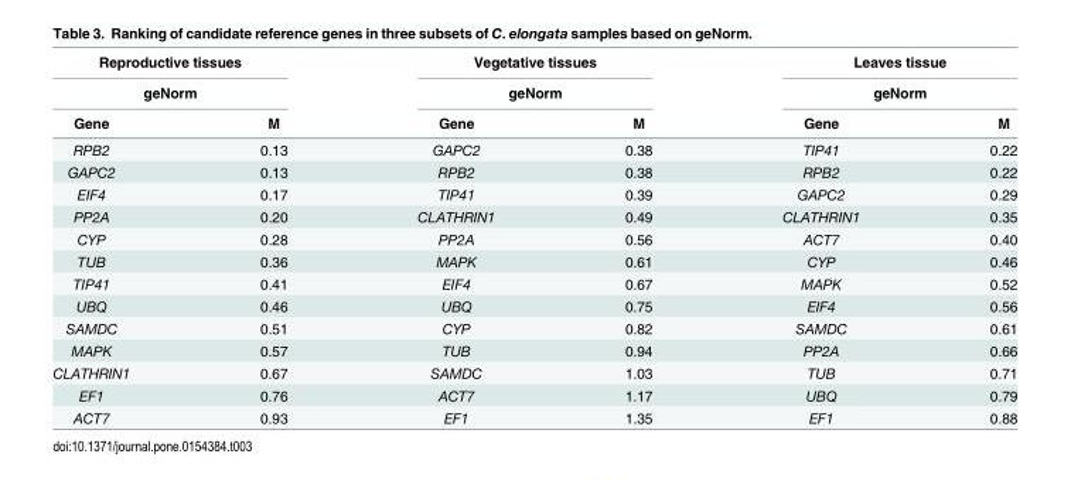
<table><thead><tr><td rowspan="2" colspan="2">Reproductive tissues geNorm</td><td rowspan="2" colspan="2">Vegetative tissues geNorm</td><td rowspan="2" colspan="2">Leaves tissue geNorm</td></tr><tr></tr><tr><td>Gene</td><td>M</td><td>Gene</td><td>M</td><td>Gene</td><td>M</td></tr></thead><tbody><tr><td>RPB2</td><td>0.13</td><td>GAPC2</td><td>0.38</td><td>TIP41</td><td>0.22</td></tr><tr><td>GAPC2</td><td>0.13</td><td>RPB2</td><td>0.38</td><td>RPB2</td><td>0.22</td></tr><tr><td>EIF4</td><td>0.17</td><td>TIP41</td><td>0.39</td><td>GAPC2</td><td>0.29</td></tr><tr><td>PP2A</td><td>0.20</td><td>CLATHRIN1</td><td>0.49</td><td>CLATHRIN1</td><td>0.35</td></tr><tr><td>CYP</td><td>0.28</td><td>PP2A</td><td>0.56</td><td>ACT7</td><td>0.40</td></tr><tr><td>TUB</td><td>0.36</td><td>MAPK</td><td>0.61</td><td>CYP</td><td>0.46</td></tr><tr><td>TIP41</td><td>0.41</td><td>EIF4</td><td>0.67</td><td>MAPK</td><td>0.52</td></tr><tr><td>UBQ</td><td>0.46</td><td>UBQ</td><td>0.75</td><td>EIF4</td><td>0.56</td></tr><tr><td>SAMDC</td><td>0.51</td><td>CYP</td><td>0.82</td><td>SAMDC</td><td>0.61</td></tr><tr><td>MAPK</td><td>0.57</td><td>TUB</td><td>0.94</td><td>PP2A</td><td>0.66</td></tr><tr><td>CLATHRIN1</td><td>0.67</td><td>SAMDC</td><td>1.03</td><td>TUB</td><td>0.71</td></tr><tr><td>EF1</td><td>0.76</td><td>ACT7</td><td>1.17</td><td>UBQ</td><td>0.79</td></tr><tr><td>ACT7</td><td>0.93</td><td>EF1</td><td>1.35</td><td>EF1</td><td>0.88</td></tr></tbody></table>